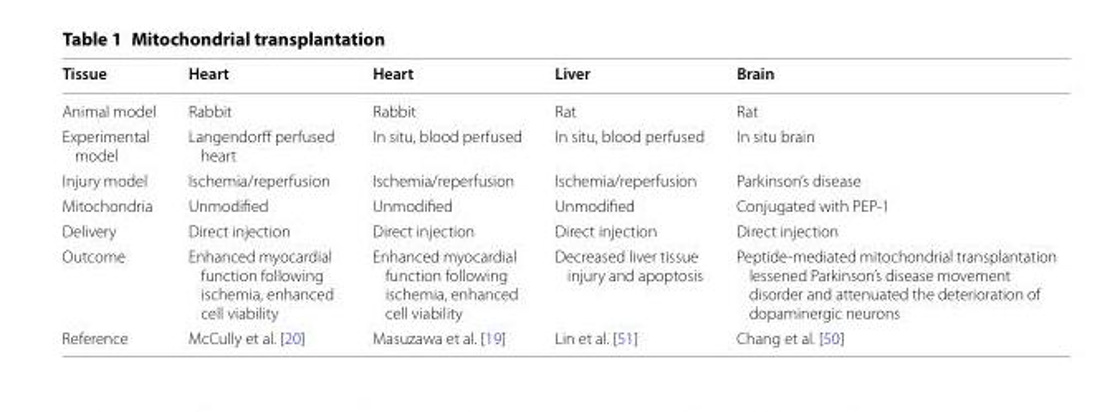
<table><thead><tr><td>Tissue</td><td>Heart</td><td>Heart</td><td>Liver</td><td>Brain</td></tr></thead><tbody><tr><td>Animal model</td><td>Rabbit</td><td>Rabbit</td><td>Rat</td><td>Rat</td></tr><tr><td>Experimental model</td><td>Langendorff perfused heart</td><td>In situ, blood perfused</td><td>In situ, blood perfused</td><td>In situ brain</td></tr><tr><td>Injury model</td><td>Ischemia/reperfusion</td><td>Ischemia/reperfusion</td><td>Ischemia/reperfusion</td><td>Parkinson’s disease</td></tr><tr><td>Mitochondria</td><td>Unmodified</td><td>Unmodified</td><td>Unmodified</td><td>Conjugated with PEP-1</td></tr><tr><td>Delivery</td><td>Direct injection</td><td>Direct injection</td><td>Direct injection</td><td>Direct injection</td></tr><tr><td>Outcome</td><td>Enhanced myocardial function following ischemia, enhanced cell viability</td><td>Enhanced myocardial function following ischemia, enhanced cell viability</td><td>Decreased liver tissue injury and apoptosis</td><td>Peptide-mediated mitochondrial transplantation lessened Parkinson’s disease movement disorder and attenuated the deterioration of dopaminergic neurons</td></tr><tr><td>Reference</td><td>McCully et al. [20]</td><td>Masuzawa et al. [19]</td><td>Lin et al. [51]</td><td>Chang et al. [50]</td></tr></tbody></table>